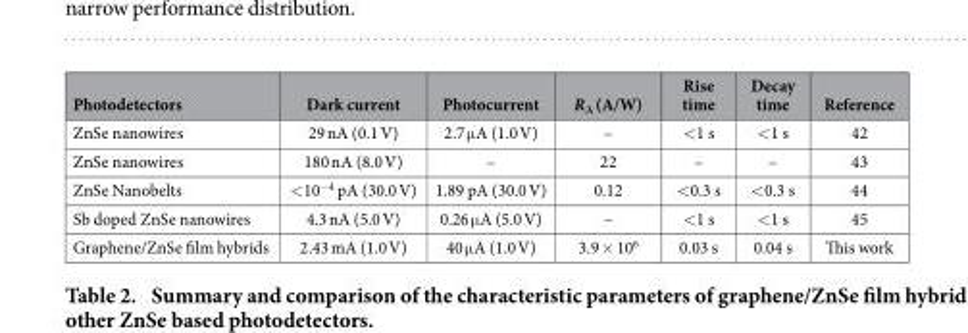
<table><thead><tr><td>Photodetectors</td><td>Dark current</td><td>Photocurrent</td><td>R<sub>λ</sub> (A/W)</td><td>Rise time</td><td>Decay time</td><td>Reference</td></tr></thead><tbody><tr><td>ZnSe nanowires</td><td>29 nA (0.1 V)</td><td>2.7 μ A (1.0 V)</td><td>–</td><td>&lt; 1 s</td><td>&lt; 1 s</td><td>42</td></tr><tr><td>ZnSe nanowires</td><td>180 nA (8.0 V)</td><td>–</td><td>22</td><td>–</td><td>–</td><td>43</td></tr><tr><td>ZnSe Nanobelts</td><td>&lt; 10<sup>−4</sup> pA (30.0 V)</td><td>1.89 pA (30.0 V)</td><td>0.12</td><td>&lt; 0.3 s</td><td>&lt; 0.3 s</td><td>44</td></tr><tr><td>Sb doped ZnSe nanowires</td><td>4.3 nA (5.0 V)</td><td>0.26 μ A (5.0 V)</td><td>–</td><td>&lt; 1 s</td><td>&lt; 1 s</td><td>45</td></tr><tr><td>Graphene/ZnSe film hybrids</td><td>2.43 mA (1.0 V)</td><td>40 μ A (1.0 V)</td><td>3.9 × 10<sup>6</sup></td><td>0.03 s</td><td>0.04 s</td><td>This work</td></tr></tbody></table>